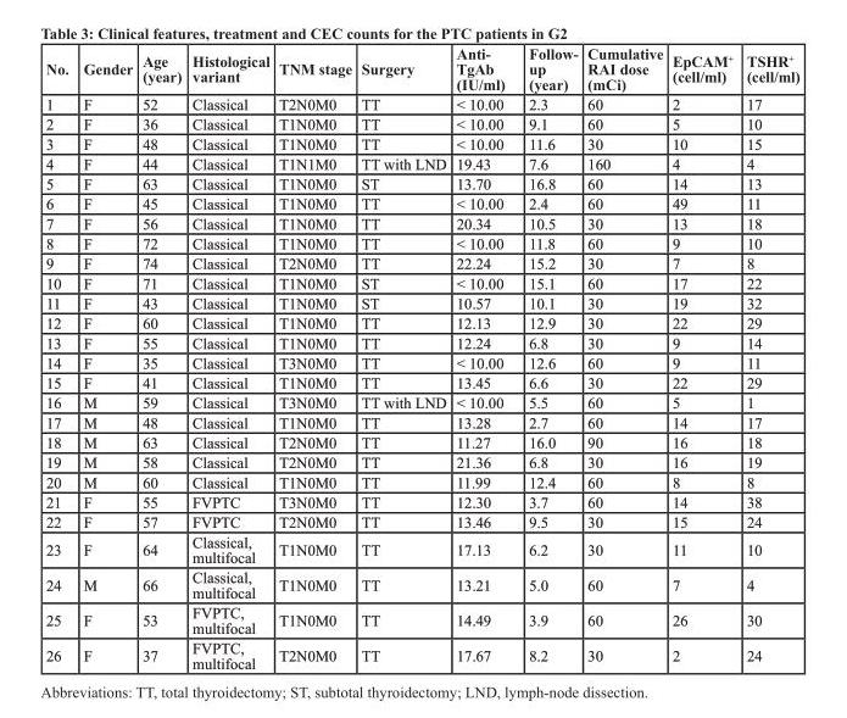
<table><thead><tr><td>No.</td><td>Gender</td><td>Age (year)</td><td>Histological variant</td><td>tNM stage</td><td>surgery</td><td>Anti- tgAb (IU/ml)</td><td>Follow- up (year)</td><td>cumulative rAI dose (mci)</td><td>EpcAM<sup>+</sup> (cell/ml)</td><td>tsHr<sup>+</sup> (cell/ml)</td></tr></thead><tbody><tr><td>1</td><td>F</td><td>52</td><td>Classical</td><td>T2N0M0</td><td>TT</td><td>&lt; 10.00</td><td>2.3</td><td>60</td><td>2</td><td>17</td></tr><tr><td>2</td><td>F</td><td>36</td><td>Classical</td><td>T1N0M0</td><td>TT</td><td>&lt; 10.00</td><td>9.1</td><td>60</td><td>5</td><td>10</td></tr><tr><td>3</td><td>F</td><td>48</td><td>Classical</td><td>T1N0M0</td><td>TT</td><td>&lt; 10.00</td><td>11.6</td><td>30</td><td>10</td><td>15</td></tr><tr><td>4</td><td>F</td><td>44</td><td>Classical</td><td>T1N1M0</td><td>TT with LND</td><td>19.43</td><td>7.6</td><td>160</td><td>4</td><td>4</td></tr><tr><td>5</td><td>F</td><td>63</td><td>Classical</td><td>T1N0M0</td><td>ST</td><td>13.70</td><td>16.8</td><td>60</td><td>14</td><td>13</td></tr><tr><td>6</td><td>F</td><td>45</td><td>Classical</td><td>T1N0M0</td><td>TT</td><td>&lt; 10.00</td><td>2.4</td><td>60</td><td>49</td><td>11</td></tr><tr><td>7</td><td>F</td><td>56</td><td>Classical</td><td>T1N0M0</td><td>TT</td><td>20.34</td><td>10.5</td><td>30</td><td>13</td><td>18</td></tr><tr><td>8</td><td>F</td><td>72</td><td>Classical</td><td>T1N0M0</td><td>TT</td><td>&lt; 10.00</td><td>11.8</td><td>60</td><td>9</td><td>10</td></tr><tr><td>9</td><td>F</td><td>74</td><td>Classical</td><td>T2N0M0</td><td>TT</td><td>22.24</td><td>15.2</td><td>30</td><td>7</td><td>8</td></tr><tr><td>10</td><td>F</td><td>71</td><td>Classical</td><td>T1N0M0</td><td>ST</td><td>&lt; 10.00</td><td>15.1</td><td>60</td><td>17</td><td>22</td></tr><tr><td>11</td><td>F</td><td>43</td><td>Classical</td><td>T1N0M0</td><td>ST</td><td>10.57</td><td>10.1</td><td>30</td><td>19</td><td>32</td></tr><tr><td>12</td><td>F</td><td>60</td><td>Classical</td><td>T1N0M0</td><td>TT</td><td>12.13</td><td>12.9</td><td>30</td><td>22</td><td>29</td></tr><tr><td>13</td><td>F</td><td>55</td><td>Classical</td><td>T1N0M0</td><td>TT</td><td>12.24</td><td>6.8</td><td>30</td><td>9</td><td>14</td></tr><tr><td>14</td><td>F</td><td>35</td><td>Classical</td><td>T3N0M0</td><td>TT</td><td>&lt; 10.00</td><td>12.6</td><td>60</td><td>9</td><td>11</td></tr><tr><td>15</td><td>F</td><td>41</td><td>Classical</td><td>T1N0M0</td><td>TT</td><td>13.45</td><td>6.6</td><td>30</td><td>22</td><td>29</td></tr><tr><td>16</td><td>M</td><td>59</td><td>Classical</td><td>T3N0M0</td><td>TT with LND</td><td>&lt; 10.00</td><td>5.5</td><td>60</td><td>5</td><td>1</td></tr><tr><td>17</td><td>M</td><td>48</td><td>Classical</td><td>T1N0M0</td><td>TT</td><td>13.28</td><td>2.7</td><td>60</td><td>14</td><td>17</td></tr><tr><td>18</td><td>M</td><td>63</td><td>Classical</td><td>T2N0M0</td><td>TT</td><td>11.27</td><td>16.0</td><td>90</td><td>16</td><td>18</td></tr><tr><td>19</td><td>M</td><td>58</td><td>Classical</td><td>T2N0M0</td><td>TT</td><td>21.36</td><td>6.8</td><td>30</td><td>16</td><td>19</td></tr><tr><td>20</td><td>M</td><td>60</td><td>Classical</td><td>T1N0M0</td><td>TT</td><td>11.99</td><td>12.4</td><td>60</td><td>8</td><td>8</td></tr><tr><td>21</td><td>F</td><td>55</td><td>FVPTC</td><td>T3N0M0</td><td>TT</td><td>12.30</td><td>3.7</td><td>60</td><td>14</td><td>38</td></tr><tr><td>22</td><td>F</td><td>57</td><td>FVPTC</td><td>T2N0M0</td><td>TT</td><td>13.46</td><td>9.5</td><td>30</td><td>15</td><td>24</td></tr><tr><td>23</td><td>F</td><td>64</td><td>Classical, multifocal</td><td>T1N0M0</td><td>TT</td><td>17.13</td><td>6.2</td><td>30</td><td>11</td><td>10</td></tr><tr><td>24</td><td>M</td><td>66</td><td>Classical, multifocal</td><td>T1N0M0</td><td>TT</td><td>13.21</td><td>5.0</td><td>60</td><td>7</td><td>4</td></tr><tr><td>25</td><td>F</td><td>53</td><td>FVPTC, multifocal</td><td>T1N0M0</td><td>TT</td><td>14.49</td><td>3.9</td><td>60</td><td>26</td><td>30</td></tr><tr><td>26</td><td>F</td><td>37</td><td>FVPTC, multifocal</td><td>T2N0M0</td><td>TT</td><td>17.67</td><td>8.2</td><td>30</td><td>2</td><td>24</td></tr></tbody></table>